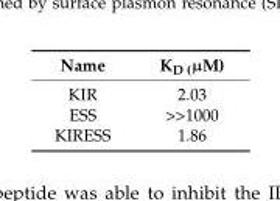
<table><thead><tr><td>Name</td><td>K<sub>D (</sub>µM)</td></tr></thead><tbody><tr><td>KIR</td><td>2.03</td></tr><tr><td>ESS</td><td>&gt;&gt;1000</td></tr><tr><td>KIRESS</td><td>1.86</td></tr></tbody></table>